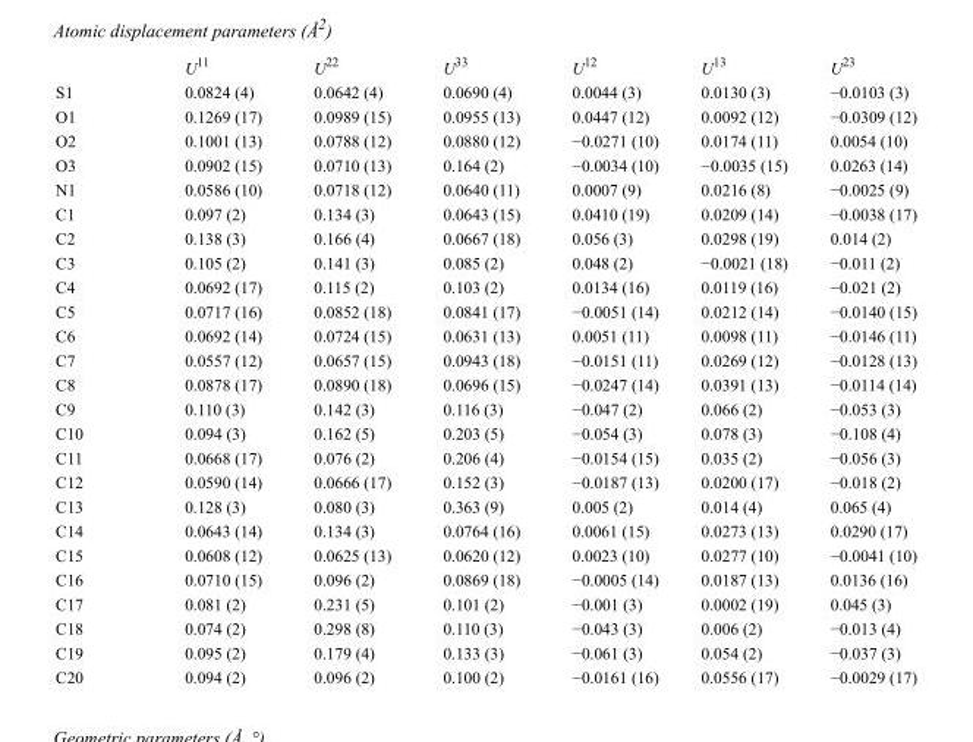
<table><thead><tr><td></td><td>U<sup>11</sup></td><td>U<sup>22</sup></td><td>U<sup>33</sup></td><td>U<sup>12</sup></td><td>U<sup>13</sup></td><td>U<sup>23</sup></td></tr></thead><tbody><tr><td>S1</td><td>0.0824 (4)</td><td>0.0642 (4)</td><td>0.0690 (4)</td><td>0.0044 (3)</td><td>0.0130 (3)</td><td>−0.0103 (3)</td></tr><tr><td>O1</td><td>0.1269 (17)</td><td>0.0989 (15)</td><td>0.0955 (13)</td><td>0.0447 (12)</td><td>0.0092 (12)</td><td>−0.0309 (12)</td></tr><tr><td>O2</td><td>0.1001 (13)</td><td>0.0788 (12)</td><td>0.0880 (12)</td><td>−0.0271 (10)</td><td>0.0174 (11)</td><td>0.0054 (10)</td></tr><tr><td>O3</td><td>0.0902 (15)</td><td>0.0710 (13)</td><td>0.164 (2)</td><td>−0.0034 (10)</td><td>−0.0035 (15)</td><td>0.0263 (14)</td></tr><tr><td>N1</td><td>0.0586 (10)</td><td>0.0718 (12)</td><td>0.0640 (11)</td><td>0.0007 (9)</td><td>0.0216 (8)</td><td>−0.0025 (9)</td></tr><tr><td>C1</td><td>0.097 (2)</td><td>0.134 (3)</td><td>0.0643 (15)</td><td>0.0410 (19)</td><td>0.0209 (14)</td><td>−0.0038 (17)</td></tr><tr><td>C2</td><td>0.138 (3)</td><td>0.166 (4)</td><td>0.0667 (18)</td><td>0.056 (3)</td><td>0.0298 (19)</td><td>0.014 (2)</td></tr><tr><td>C3</td><td>0.105 (2)</td><td>0.141 (3)</td><td>0.085 (2)</td><td>0.048 (2)</td><td>−0.0021 (18)</td><td>−0.011 (2)</td></tr><tr><td>C4</td><td>0.0692 (17)</td><td>0.115 (2)</td><td>0.103 (2)</td><td>0.0134 (16)</td><td>0.0119 (16)</td><td>−0.021 (2)</td></tr><tr><td>C5</td><td>0.0717 (16)</td><td>0.0852 (18)</td><td>0.0841 (17)</td><td>−0.0051 (14)</td><td>0.0212 (14)</td><td>−0.0140 (15)</td></tr><tr><td>C6</td><td>0.0692 (14)</td><td>0.0724 (15)</td><td>0.0631 (13)</td><td>0.0051 (11)</td><td>0.0098 (11)</td><td>−0.0146 (11)</td></tr><tr><td>C7</td><td>0.0557 (12)</td><td>0.0657 (15)</td><td>0.0943 (18)</td><td>−0.0151 (11)</td><td>0.0269 (12)</td><td>−0.0128 (13)</td></tr><tr><td>C8</td><td>0.0878 (17)</td><td>0.0890 (18)</td><td>0.0696 (15)</td><td>−0.0247 (14)</td><td>0.0391 (13)</td><td>−0.0114 (14)</td></tr><tr><td>C9</td><td>0.110 (3)</td><td>0.142 (3)</td><td>0.116 (3)</td><td>−0.047 (2)</td><td>0.066 (2)</td><td>−0.053 (3)</td></tr><tr><td>C10</td><td>0.094 (3)</td><td>0.162 (5)</td><td>0.203 (5)</td><td>−0.054 (3)</td><td>0.078 (3)</td><td>−0.108 (4)</td></tr><tr><td>C11</td><td>0.0668 (17)</td><td>0.076 (2)</td><td>0.206 (4)</td><td>−0.0154 (15)</td><td>0.035 (2)</td><td>−0.056 (3)</td></tr><tr><td>C12</td><td>0.0590 (14)</td><td>0.0666 (17)</td><td>0.152 (3)</td><td>−0.0187 (13)</td><td>0.0200 (17)</td><td>−0.018 (2)</td></tr><tr><td>C13</td><td>0.128 (3)</td><td>0.080 (3)</td><td>0.363 (9)</td><td>0.005 (2)</td><td>0.014 (4)</td><td>0.065 (4)</td></tr><tr><td>C14</td><td>0.0643 (14)</td><td>0.134 (3)</td><td>0.0764 (16)</td><td>0.0061 (15)</td><td>0.0273 (13)</td><td>0.0290 (17)</td></tr><tr><td>C15</td><td>0.0608 (12)</td><td>0.0625 (13)</td><td>0.0620 (12)</td><td>0.0023 (10)</td><td>0.0277 (10)</td><td>−0.0041 (10)</td></tr><tr><td>C16</td><td>0.0710 (15)</td><td>0.096 (2)</td><td>0.0869 (18)</td><td>−0.0005 (14)</td><td>0.0187 (13)</td><td>0.0136 (16)</td></tr><tr><td>C17</td><td>0.081 (2)</td><td>0.231 (5)</td><td>0.101 (2)</td><td>−0.001 (3)</td><td>0.0002 (19)</td><td>0.045 (3)</td></tr><tr><td>C18</td><td>0.074 (2)</td><td>0.298 (8)</td><td>0.110 (3)</td><td>−0.043 (3)</td><td>0.006 (2)</td><td>−0.013 (4)</td></tr><tr><td>C19</td><td>0.095 (2)</td><td>0.179 (4)</td><td>0.133 (3)</td><td>−0.061 (3)</td><td>0.054 (2)</td><td>−0.037 (3)</td></tr><tr><td>C20</td><td>0.094 (2)</td><td>0.096 (2)</td><td>0.100 (2)</td><td>−0.0161 (16)</td><td>0.0556 (17)</td><td>−0.0029 (17)</td></tr></tbody></table>